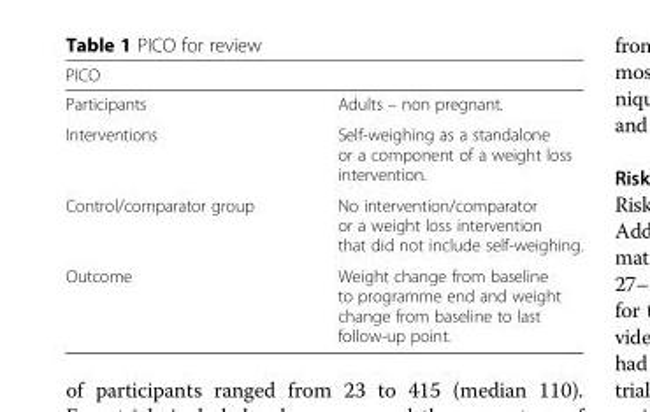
<table><thead><tr><td>PICO</td><td></td></tr></thead><tbody><tr><td>Participants</td><td>Adults – non pregnant.</td></tr><tr><td>Interventions</td><td>Self-weighing as a standalone or a component of a weight loss intervention.</td></tr><tr><td>Control/comparator group</td><td>No intervention/comparator or a weight loss intervention that did not include self-weighing.</td></tr><tr><td>Outcome</td><td>Weight change from baseline to programme end and weight change from baseline to last follow-up point.</td></tr></tbody></table>